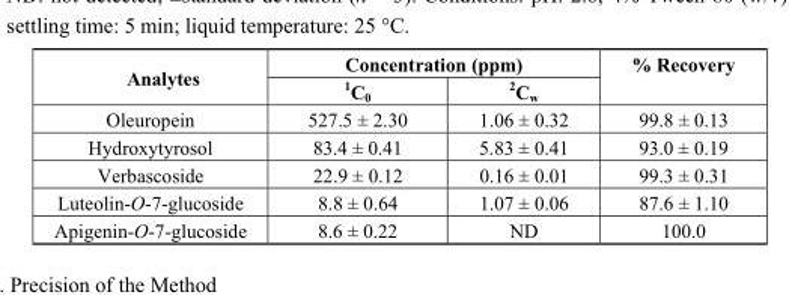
<table><thead><tr><td rowspan="2">Analytes</td><td colspan="2">Concentration (ppm)</td><td rowspan="2">% Recovery</td></tr><tr><td><sup>1</sup>C<sub>0</sub></td><td><sup>2</sup>C<sub>w</sub></td></tr></thead><tbody><tr><td>Oleuropein</td><td>527.5 ± 2.30</td><td>1.06 ± 0.32</td><td>99.8 ± 0.13</td></tr><tr><td>Hydroxytyrosol</td><td>83.4 ± 0.41</td><td>5.83 ± 0.41</td><td>93.0 ± 0.19</td></tr><tr><td>Verbascoside</td><td>22.9 ± 0.12</td><td>0.16 ± 0.01</td><td>99.3 ± 0.31</td></tr><tr><td>Luteolin-O-7-glucoside</td><td>8.8 ± 0.64</td><td>1.07 ± 0.06</td><td>87.6 ± 1.10</td></tr><tr><td>Apigenin-O-7-glucoside</td><td>8.6 ± 0.22</td><td>ND</td><td>100.0</td></tr></tbody></table>